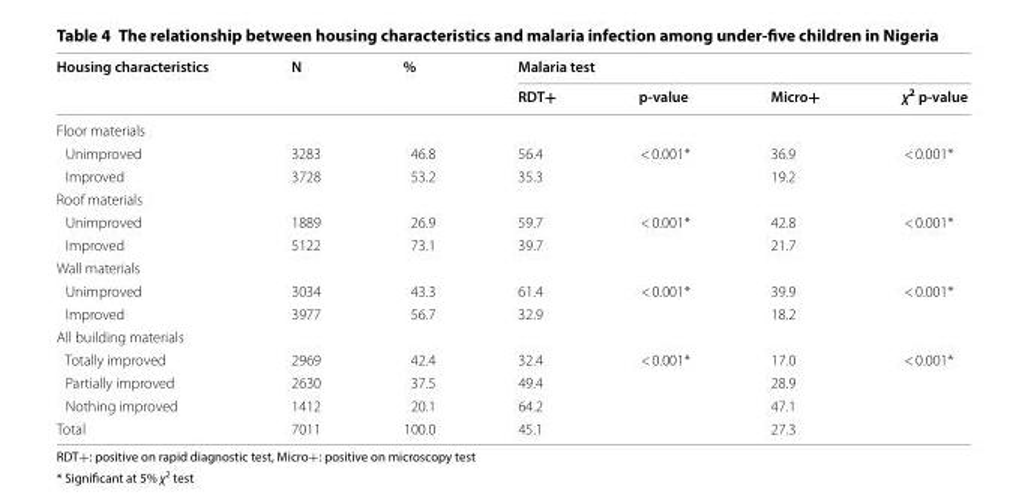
<table><thead><tr><td rowspan="2">Housing characteristics</td><td rowspan="2">N</td><td rowspan="2">%</td><td colspan="4">Malaria test</td></tr><tr><td>RDT+</td><td>p-value</td><td>Micro+</td><td>χ<sup>2</sup> p-value</td></tr></thead><tbody><tr><td colspan="7">Floor materials</td></tr><tr><td>Unimproved</td><td>3283</td><td>46.8</td><td>56.4</td><td>&lt; 0.001*</td><td>36.9</td><td>&lt; 0.001*</td></tr><tr><td>Improved</td><td>3728</td><td>53.2</td><td>35.3</td><td></td><td>19.2</td><td></td></tr><tr><td colspan="7">Roof materials</td></tr><tr><td>Unimproved</td><td>1889</td><td>26.9</td><td>59.7</td><td>&lt; 0.001*</td><td>42.8</td><td>&lt; 0.001*</td></tr><tr><td>Improved</td><td>5122</td><td>73.1</td><td>39.7</td><td></td><td>21.7</td><td></td></tr><tr><td colspan="7">Wall materials</td></tr><tr><td>Unimproved</td><td>3034</td><td>43.3</td><td>61.4</td><td>&lt; 0.001*</td><td>39.9</td><td>&lt; 0.001*</td></tr><tr><td>Improved</td><td>3977</td><td>56.7</td><td>32.9</td><td></td><td>18.2</td><td></td></tr><tr><td colspan="7">All building materials</td></tr><tr><td>Totally improved</td><td>2969</td><td>42.4</td><td>32.4</td><td>&lt; 0.001*</td><td>17.0</td><td>&lt; 0.001*</td></tr><tr><td>Partially improved</td><td>2630</td><td>37.5</td><td>49.4</td><td></td><td>28.9</td><td></td></tr><tr><td>Nothing improved</td><td>1412</td><td>20.1</td><td>64.2</td><td></td><td>47.1</td><td></td></tr><tr><td>Total</td><td>7011</td><td>100.0</td><td>45.1</td><td></td><td>27.3</td><td></td></tr></tbody></table>